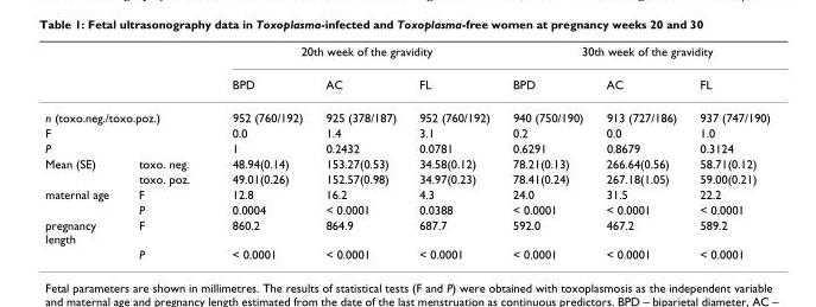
<table><thead><tr><td rowspan="2"></td><td rowspan="2"></td><td colspan="3">20th week of the gravidity</td><td colspan="3">30th week of the gravidity</td></tr><tr><td>BPD</td><td>AC</td><td>FL</td><td>BPD</td><td>AC</td><td>FL</td></tr></thead><tbody><tr><td colspan="2">n (toxo.neg./toxo.poz.)</td><td>952 (760/192)</td><td>925 (378/187)</td><td>952 (760/192)</td><td>940 (750/190)</td><td>913 (727/186)</td><td>937 (747/190)</td></tr><tr><td colspan="2">F</td><td>0.0</td><td>1.4</td><td>3.1</td><td>0.2</td><td>0.0</td><td>1.0</td></tr><tr><td colspan="2">P</td><td>1</td><td>0.2432</td><td>0.0781</td><td>0.6291</td><td>0.8679</td><td>0.3124</td></tr><tr><td rowspan="2">Mean (SE)</td><td>toxo. neg.</td><td>48.94(0.14)</td><td>153.27(0.53)</td><td>34.58(0.12)</td><td>78.21(0.13)</td><td>266.64(0.56)</td><td>58.71(0.12)</td></tr><tr><td>toxo. poz.</td><td>49.01(0.26)</td><td>152.57(0.98)</td><td>34.97(0.23)</td><td>78.41(0.24)</td><td>267.18(1.05)</td><td>59.00(0.21)</td></tr><tr><td rowspan="2">maternal age</td><td>F</td><td>12.8</td><td>16.2</td><td>4.3</td><td>24.0</td><td>31.5</td><td>22.2</td></tr><tr><td>P</td><td>0.0004</td><td>&lt; 0.0001</td><td>0.0388</td><td>&lt; 0.0001</td><td>&lt; 0.0001</td><td>&lt; 0.0001</td></tr><tr><td rowspan="2">pregnancy length</td><td>F</td><td>860.2</td><td>864.9</td><td>687.7</td><td>592.0</td><td>467.2</td><td>589.2</td></tr><tr><td>P</td><td>&lt; 0.0001</td><td>&lt; 0.0001</td><td>&lt; 0.0001</td><td>&lt; 0.0001</td><td>&lt; 0.0001</td><td>&lt; 0.0001</td></tr></tbody></table>